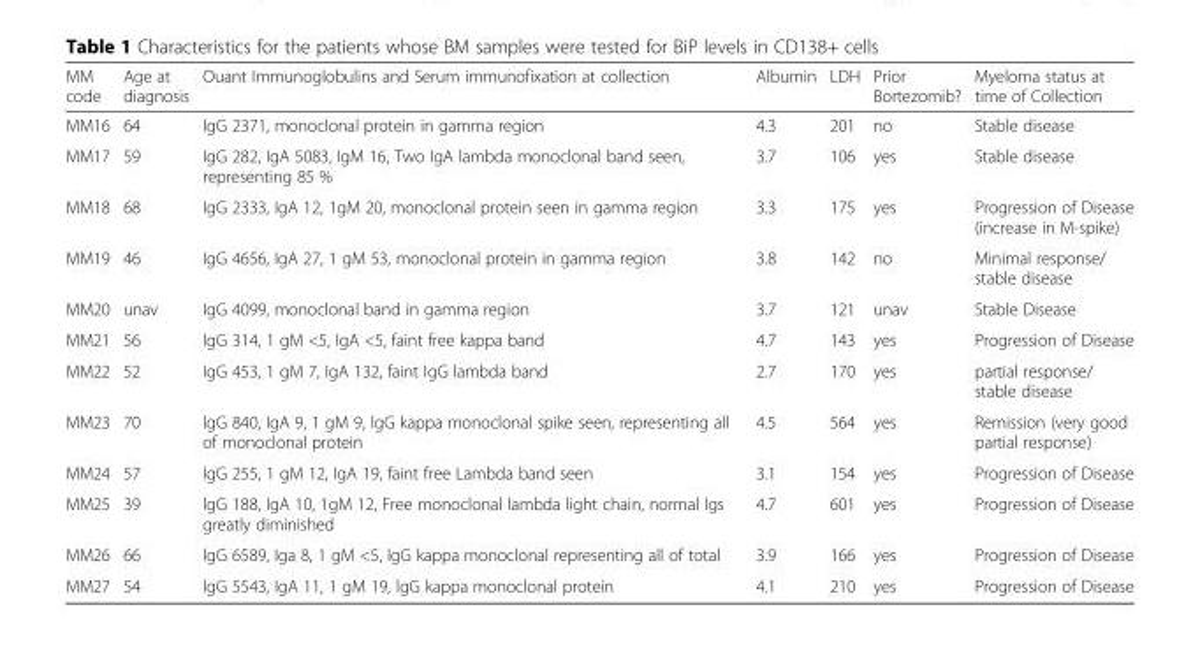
<table><thead><tr><td>MM code</td><td>Age at diagnosis</td><td>Ouant Immunoglobulins and Serum immunofixation at collection</td><td>Albumin</td><td>LDH</td><td>Prior Bortezomib?</td><td>Myeloma status at time of Collection</td></tr></thead><tbody><tr><td>MM16</td><td>64</td><td>lgG 2371, monoclonal protein in gamma region</td><td>4.3</td><td>201</td><td>no</td><td>Stable disease</td></tr><tr><td>MM17</td><td>59</td><td>IgG 282, IgA 5083, IgM 16, Two IgA lambda monoclonal band seen, representing 85 %</td><td>3.7</td><td>106</td><td>yes</td><td>Stable disease</td></tr><tr><td>MM18</td><td>68</td><td>IgG 2333, IgA 12, 1gM 20, monoclonal protein seen in gamma region</td><td>3.3</td><td>175</td><td>yes</td><td>Progression of Disease (increase in M-spike)</td></tr><tr><td>MM19</td><td>46</td><td>IgG 4656, IgA 27, 1 gM 53, monoclonal protein in gamma region</td><td>3.8</td><td>142</td><td>no</td><td>Minimal response/ stable disease</td></tr><tr><td>MM20</td><td>unav</td><td>IgG 4099, monoclonal band in gamma region</td><td>3.7</td><td>121</td><td>unav</td><td>Stable Disease</td></tr><tr><td>MM21</td><td>56</td><td>IgG 314, 1 gM &lt;5, IgA &lt;5, faint free kappa band</td><td>4.7</td><td>143</td><td>yes</td><td>Progression of Disease</td></tr><tr><td>MM22</td><td>52</td><td>IgG 453, 1 gM 7, IgA 132, faint IgG lambda band</td><td>2.7</td><td>170</td><td>yes</td><td>partial response/ stable disease</td></tr><tr><td>MM23</td><td>70</td><td>lgG 840, IgA 9, 1 gM 9, lgG kappa monoclonal spike seen, representing all of monoclonal protein</td><td>4.5</td><td>564</td><td>yes</td><td>Remission (very good partial response)</td></tr><tr><td>MM24</td><td>57</td><td>lgG 255, 1 gM 12, IgA 19, faint free Lambda band seen</td><td>3.1</td><td>154</td><td>yes</td><td>Progression of Disease</td></tr><tr><td>MM25</td><td>39</td><td>lgG 188, IgA 10, 1gM 12, Free monoclonal lambda light chain, normal Igs greatly diminished</td><td>4.7</td><td>601</td><td>yes</td><td>Progression of Disease</td></tr><tr><td>MM26</td><td>66</td><td>lgG 6589, Iga 8, 1 gM &lt;5, lgG kappa monoclonal representing all of total</td><td>3.9</td><td>166</td><td>yes</td><td>Progression of Disease</td></tr><tr><td>MM27</td><td>54</td><td>lgG 5543, IgA 11, 1 gM 19, lgG kappa monoclonal protein</td><td>4.1</td><td>210</td><td>yes</td><td>Progression of Disease</td></tr></tbody></table>